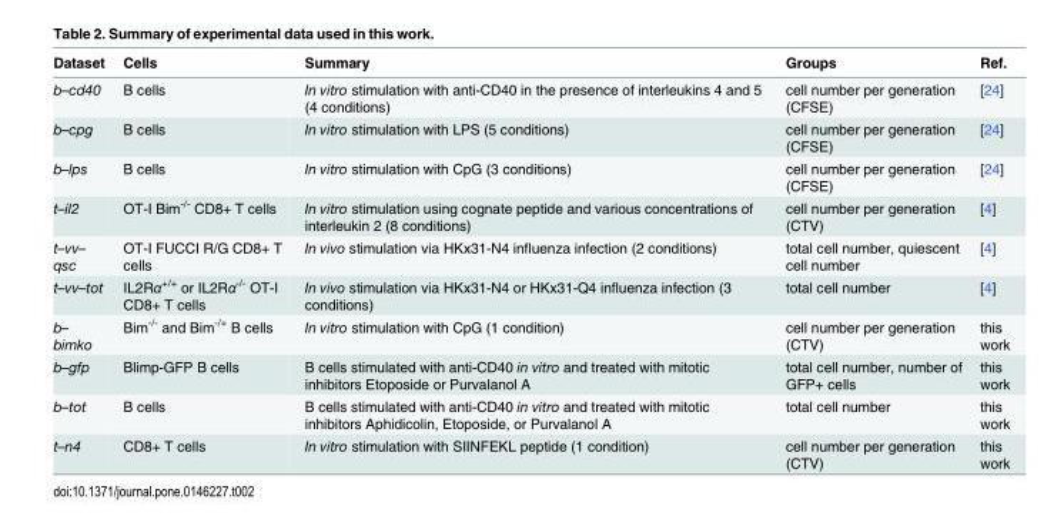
<table><thead><tr><td>Dataset</td><td>Cells</td><td>Summary</td><td>Groups</td><td>Ref.</td></tr></thead><tbody><tr><td>b–cd40</td><td>B cells</td><td>In vitro stimulation with anti-CD40 in the presence of interleukins 4 and 5 (4 conditions)</td><td>cell number per generation (CFSE)</td><td>[24]</td></tr><tr><td>b–cpg</td><td>B cells</td><td>In vitro stimulation with LPS (5 conditions)</td><td>cell number per generation (CFSE)</td><td>[24]</td></tr><tr><td>b–lps</td><td>B cells</td><td>In vitro stimulation with CpG (3 conditions)</td><td>cell number per generation (CFSE)</td><td>[24]</td></tr><tr><td>t–il2</td><td>OT-I Bim<sup>-/-</sup> CD8+ T cells</td><td>In vitro stimulation using cognate peptide and various concentrations of interleukin 2 (8 conditions)</td><td>cell number per generation (CTV)</td><td>[4]</td></tr><tr><td>t–vv– qsc</td><td>OT-I FUCCI R/G CD8+ T cells</td><td>In vivo stimulation via HKx31-N4 influenza infection (2 conditions)</td><td>total cell number, quiescent cell number</td><td>[4]</td></tr><tr><td>t–vv–tot</td><td>IL2Rα<sup>+/+</sup> or IL2Rα<sup>-/-</sup> OT-I CD8+ T cells</td><td>In vivo stimulation via HKx31-N4 or HKx31-Q4 influenza infection (3 conditions)</td><td>total cell number</td><td>[4]</td></tr><tr><td>b– bimko</td><td>Bim<sup>-/-</sup> and Bim<sup>-/+</sup> B cells</td><td>In vitro stimulation with CpG (1 condition)</td><td>cell number per generation (CTV)</td><td>this work</td></tr><tr><td>b–gfp</td><td>Blimp-GFP B cells</td><td>B cells stimulated with anti-CD40 in vitro and treated with mitotic inhibitors Etoposide or Purvalanol A</td><td>total cell number, number of GFP+ cells</td><td>this work</td></tr><tr><td>b–tot</td><td>B cells</td><td>B cells stimulated with anti-CD40 in vitro and treated with mitotic inhibitors Aphidicolin, Etoposide, or Purvalanol A</td><td>total cell number</td><td>this work</td></tr><tr><td>t–n4</td><td>CD8+ T cells</td><td>In vitro stimulation with SIINFEKL peptide (1 condition)</td><td>cell number per generation (CTV)</td><td>this work</td></tr></tbody></table>